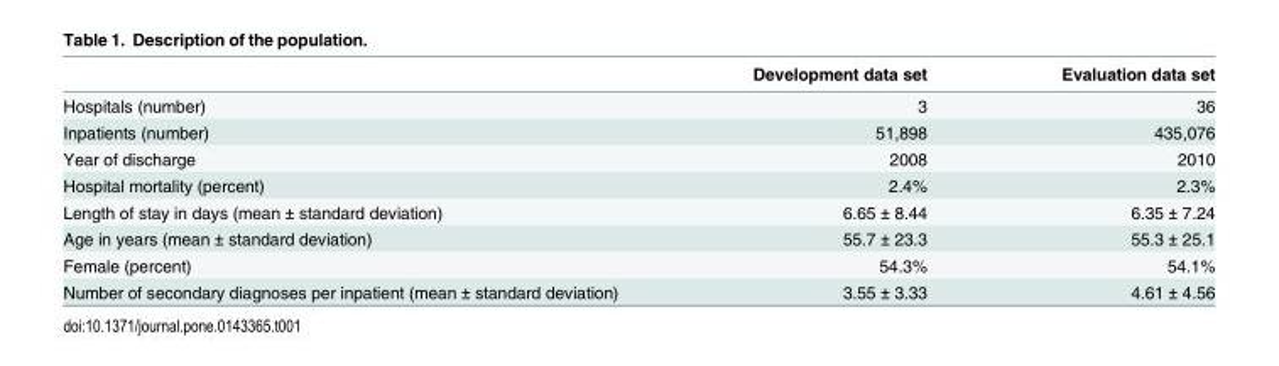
<table><thead><tr><td></td><td>Development data set</td><td>Evaluation data set</td></tr></thead><tbody><tr><td>Hospitals (number)</td><td>3</td><td>36</td></tr><tr><td>Inpatients (number)</td><td>51,898</td><td>435,076</td></tr><tr><td>Year of discharge</td><td>2008</td><td>2010</td></tr><tr><td>Hospital mortality (percent)</td><td>2.4%</td><td>2.3%</td></tr><tr><td>Length of stay in days (mean ± standard deviation)</td><td>6.65 ± 8.44</td><td>6.35 ± 7.24</td></tr><tr><td>Age in years (mean ± standard deviation)</td><td>55.7 ± 23.3</td><td>55.3 ± 25.1</td></tr><tr><td>Female (percent)</td><td>54.3%</td><td>54.1%</td></tr><tr><td>Number of secondary diagnoses per inpatient (mean ± standard deviation)</td><td>3.55 ± 3.33</td><td>4.61 ± 4.56</td></tr></tbody></table>